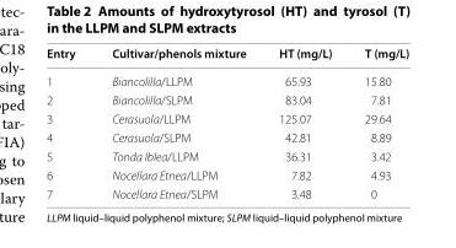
<table><thead><tr><td>Entry</td><td>Cultivar/phenols mixture</td><td>HT (mg/L)</td><td>T (mg/L)</td></tr></thead><tbody><tr><td>1</td><td>Biancolilla/LLPM</td><td>65.93</td><td>15.80</td></tr><tr><td>2</td><td>Biancolilla/SLPM</td><td>83.04</td><td>7.81</td></tr><tr><td>3</td><td>Cerasuola/LLPM</td><td>125.07</td><td>29.64</td></tr><tr><td>4</td><td>Cerasuola/SLPM</td><td>42.81</td><td>8.89</td></tr><tr><td>5</td><td>Tonda Iblea/LLPM</td><td>36.31</td><td>3.42</td></tr><tr><td>6</td><td>Nocellara Etnea/LLPM</td><td>7.82</td><td>4.93</td></tr><tr><td>7</td><td>Nocellara Etnea/SLPM</td><td>3.48</td><td>0</td></tr></tbody></table>